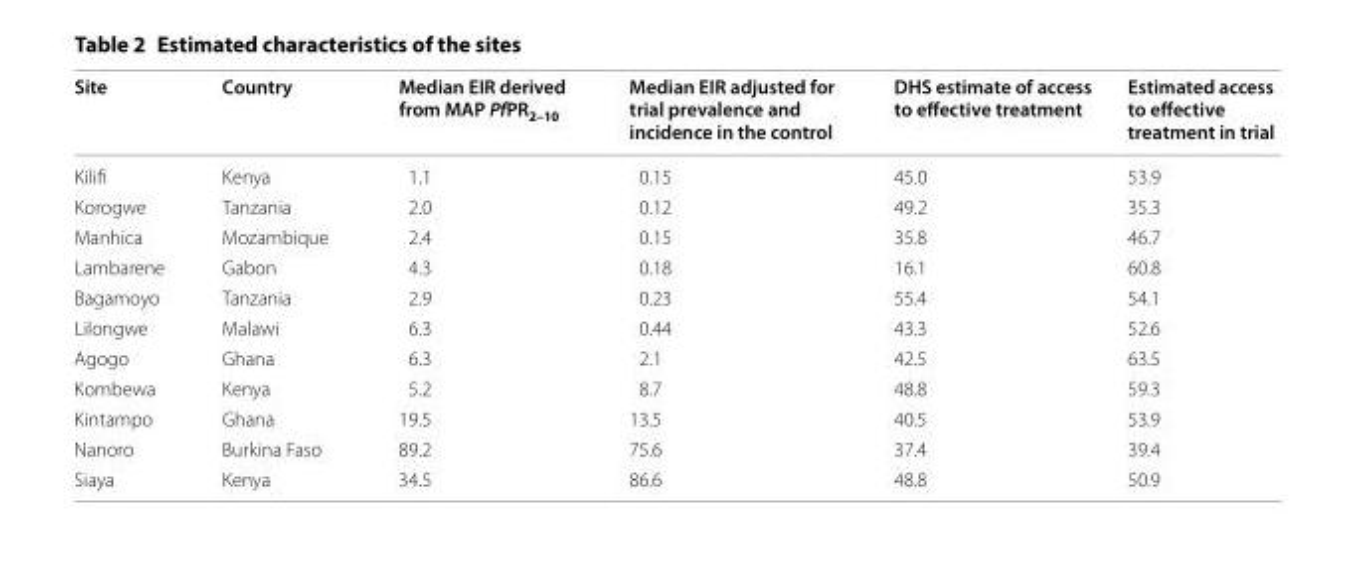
<table><thead><tr><td>Site</td><td>Country</td><td>Median EIR derived from MAP PfPR<sub>2–10</sub></td><td>Median EIR adjusted for trial prevalence and incidence in the control</td><td>DHS estimate of access to effective treatment</td><td>Estimated access to effective treatment in trial</td></tr></thead><tbody><tr><td>Kilifi</td><td>Kenya</td><td>1.1</td><td>0.15</td><td>45.0</td><td>53.9</td></tr><tr><td>Korogwe</td><td>Tanzania</td><td>2.0</td><td>0.12</td><td>49.2</td><td>35.3</td></tr><tr><td>Manhica</td><td>Mozambique</td><td>2.4</td><td>0.15</td><td>35.8</td><td>46.7</td></tr><tr><td>Lambarene</td><td>Gabon</td><td>4.3</td><td>0.18</td><td>16.1</td><td>60.8</td></tr><tr><td>Bagamoyo</td><td>Tanzania</td><td>2.9</td><td>0.23</td><td>55.4</td><td>54.1</td></tr><tr><td>Lilongwe</td><td>Malawi</td><td>6.3</td><td>0.44</td><td>43.3</td><td>52.6</td></tr><tr><td>Agogo</td><td>Ghana</td><td>6.3</td><td>2.1</td><td>42.5</td><td>63.5</td></tr><tr><td>Kombewa</td><td>Kenya</td><td>5.2</td><td>8.7</td><td>48.8</td><td>59.3</td></tr><tr><td>Kintampo</td><td>Ghana</td><td>19.5</td><td>13.5</td><td>40.5</td><td>53.9</td></tr><tr><td>Nanoro</td><td>Burkina Faso</td><td>89.2</td><td>75.6</td><td>37.4</td><td>39.4</td></tr><tr><td>Siaya</td><td>Kenya</td><td>34.5</td><td>86.6</td><td>48.8</td><td>50.9</td></tr></tbody></table>